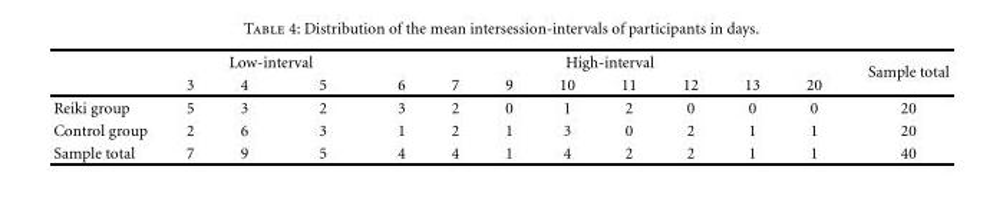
<table><thead><tr><td rowspan="2"></td><td colspan="3">Low-interval</td><td colspan="8">High-interval</td><td rowspan="2">Sample total</td></tr><tr><td>3</td><td>4</td><td>5</td><td>6</td><td>7</td><td>9</td><td>10</td><td>11</td><td>12</td><td>13</td><td>20</td></tr></thead><tbody><tr><td>Reiki group</td><td>5</td><td>3</td><td>2</td><td>3</td><td>2</td><td>0</td><td>1</td><td>2</td><td>0</td><td>0</td><td>0</td><td>20</td></tr><tr><td>Control group</td><td>2</td><td>6</td><td>3</td><td>1</td><td>2</td><td>1</td><td>3</td><td>0</td><td>2</td><td>1</td><td>1</td><td>20</td></tr><tr><td>Sample total</td><td>7</td><td>9</td><td>5</td><td>4</td><td>4</td><td>1</td><td>4</td><td>2</td><td>2</td><td>1</td><td>1</td><td>40</td></tr></tbody></table>